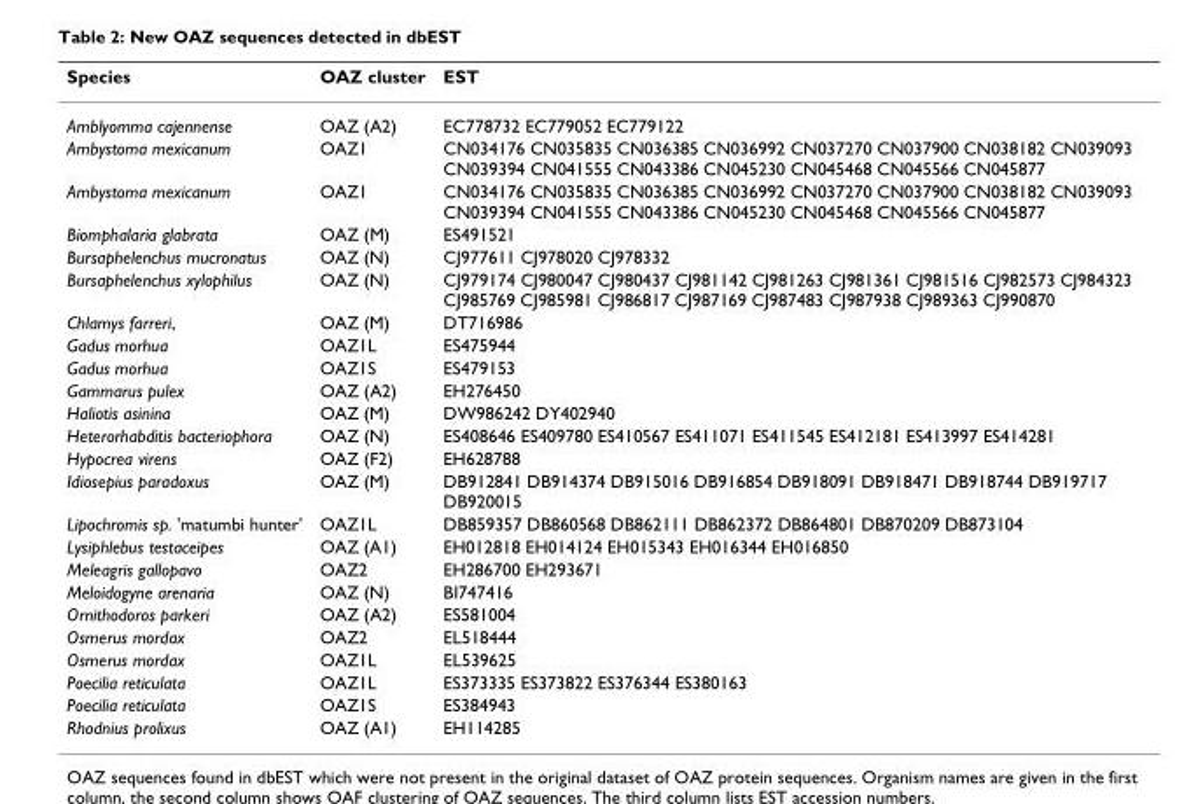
<table><thead><tr><td>Species</td><td>OAZ cluster</td><td>EST</td></tr></thead><tbody><tr><td>Amblyomma cajennense</td><td>OAZ (A2)</td><td>EC778732 EC779052 EC779122</td></tr><tr><td>Ambystoma mexicanum</td><td>OAZ1</td><td>CN034176 CN035835 CN036385 CN036992 CN037270 CN037900 CN038182 CN039093 CN039394 CN041555 CN043386 CN045230 CN045468 CN045566 CN045877</td></tr><tr><td>Ambystoma mexicanum</td><td>OAZ1</td><td>CN034176 CN035835 CN036385 CN036992 CN037270 CN037900 CN038182 CN039093 CN039394 CN041555 CN043386 CN045230 CN045468 CN045566 CN045877</td></tr><tr><td>Biomphalaria glabrata</td><td>OAZ (M)</td><td>ES491521</td></tr><tr><td>Bursaphelenchus mucronatus</td><td>OAZ (N)</td><td>CJ977611 CJ978020 CJ978332</td></tr><tr><td>Bursaphelenchus xylophilus</td><td>OAZ (N)</td><td>CJ979174 CJ980047 CJ980437 CJ981142 CJ981263 CJ981361 CJ981516 CJ982573 CJ984323 CJ985769 CJ985981 CJ986817 CJ987169 CJ987483 CJ987938 CJ989363 CJ990870</td></tr><tr><td>Chlamys farreri,</td><td>OAZ (M)</td><td>DT716986</td></tr><tr><td>Gadus morhua</td><td>OAZ1L</td><td>ES475944</td></tr><tr><td>Gadus morhua</td><td>OAZ1S</td><td>ES479153</td></tr><tr><td>Gammarus pulex</td><td>OAZ (A2)</td><td>EH276450</td></tr><tr><td>Haliotis asinina</td><td>OAZ (M)</td><td>DW986242 DY402940</td></tr><tr><td>Heterorhabditis bacteriophora</td><td>OAZ (N)</td><td>ES408646 ES409780 ES410567 ES411071 ES411545 ES412181 ES413997 ES414281</td></tr><tr><td>Hypocrea virens</td><td>OAZ (F2)</td><td>EH628788</td></tr><tr><td>Idiosepius paradoxus</td><td>OAZ (M)</td><td>DB912841 DB914374 DB915016 DB916854 DB918091 DB918471 DB918744 DB919717 DB920015</td></tr><tr><td>Lipochromis sp. &#x27;matumbi hunter&#x27;</td><td>OAZ1L</td><td>DB859357 DB860568 DB862111 DB862372 DB864801 DB870209 DB873104</td></tr><tr><td>Lysiphlebus testaceipes</td><td>OAZ (A1)</td><td>EH012818 EH014124 EH015343 EH016344 EH016850</td></tr><tr><td>Meleagris gallopavo</td><td>OAZ2</td><td>EH286700 EH293671</td></tr><tr><td>Meloidogyne arenaria</td><td>OAZ (N)</td><td>BI747416</td></tr><tr><td>Ornithodoros parkeri</td><td>OAZ (A2)</td><td>ES581004</td></tr><tr><td>Osmerus mordax</td><td>OAZ2</td><td>EL518444</td></tr><tr><td>Osmerus mordax</td><td>OAZ1L</td><td>EL539625</td></tr><tr><td>Poecilia reticulata</td><td>OAZ1L</td><td>ES373335 ES373822 ES376344 ES380163</td></tr><tr><td>Poecilia reticulata</td><td>OAZ1S</td><td>ES384943</td></tr><tr><td>Rhodnius prolixus</td><td>OAZ (A1)</td><td>EH114285</td></tr></tbody></table>